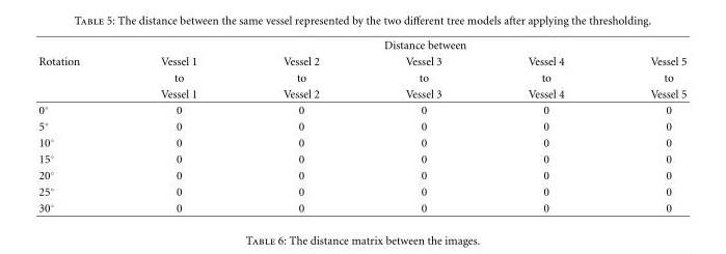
<table><thead><tr><td rowspan="4">Rotation</td><td colspan="5">Distance between</td></tr><tr><td rowspan="3">Vessel 1 to Vessel 1</td><td rowspan="3">Vessel 2 to Vessel 2</td><td rowspan="3">Vessel 3 to Vessel 3</td><td rowspan="3">Vessel 4 to Vessel 4</td><td rowspan="3">Vessel 5 to Vessel 5</td></tr><tr></tr><tr></tr></thead><tbody><tr><td>0◦</td><td>0</td><td>0</td><td>0</td><td>0</td><td>0</td></tr><tr><td>5◦</td><td>0</td><td>0</td><td>0</td><td>0</td><td>0</td></tr><tr><td>10◦</td><td>0</td><td>0</td><td>0</td><td>0</td><td>0</td></tr><tr><td>15◦</td><td>0</td><td>0</td><td>0</td><td>0</td><td>0</td></tr><tr><td>20◦</td><td>0</td><td>0</td><td>0</td><td>0</td><td>0</td></tr><tr><td>25◦</td><td>0</td><td>0</td><td>0</td><td>0</td><td>0</td></tr><tr><td>30◦</td><td>0</td><td>0</td><td>0</td><td>0</td><td>0</td></tr></tbody></table>